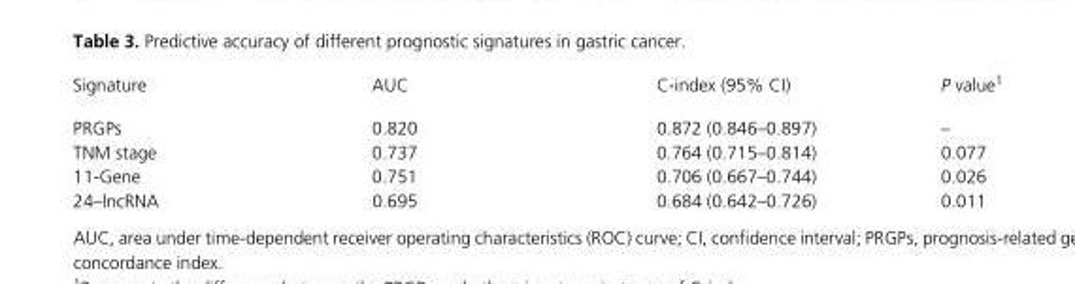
<table><thead><tr><td>Signature</td><td>AUC</td><td>C- index (95% CI)</td><td>P value1</td></tr></thead><tbody><tr><td>PRGPs</td><td>0.820</td><td>0.872 (0.846–0.897)</td><td>–</td></tr><tr><td>TNM stage</td><td>0.737</td><td>0.764 (0.715–0.814)</td><td>0.077</td></tr><tr><td>11- Gene</td><td>0.751</td><td>0.706 (0.667–0.744)</td><td>0.026</td></tr><tr><td>24–lncRNA</td><td>0.695</td><td>0.684 (0.642–0.726)</td><td>0.011</td></tr></tbody></table>